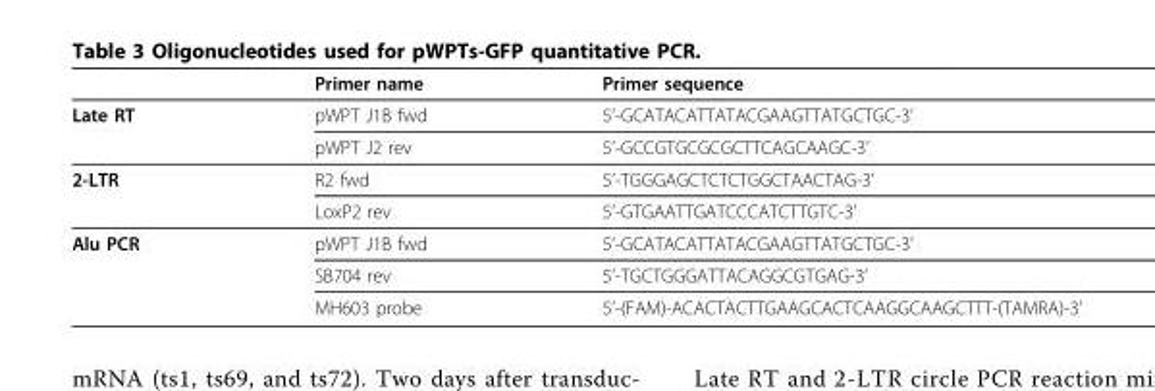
<table><thead><tr><td></td><td>Primer name</td><td>Primer sequence</td></tr></thead><tbody><tr><td rowspan="2">Late RT</td><td>pWPT J1B fwd</td><td>5’-GCATACATTATACGAAGTTATGCTGC-3’</td></tr><tr><td>pWPT J2 rev</td><td>5’-GCCGTGCGCGCTTCAGCAAGC-3’</td></tr><tr><td rowspan="2">2-LTR</td><td>R2 fwd</td><td>5’-TGGGAGCTCTCTGGCTAACTAG-3’</td></tr><tr><td>LoxP2 rev</td><td>5’-GTGAATTGATCCCATCTTGTC-3’</td></tr><tr><td rowspan="3">Alu PCR</td><td>pWPT J1B fwd</td><td>5’-GCATACATTATACGAAGTTATGCTGC-3’</td></tr><tr><td>SB704 rev</td><td>5’-TGCTGGGATTACAGGCGTGAG-3’</td></tr><tr><td>MH603 probe</td><td>5’-(FAM)-ACACTACTTGAAGCACTCAAGGCAAGCTTT-(TAMRA)-3’</td></tr></tbody></table>